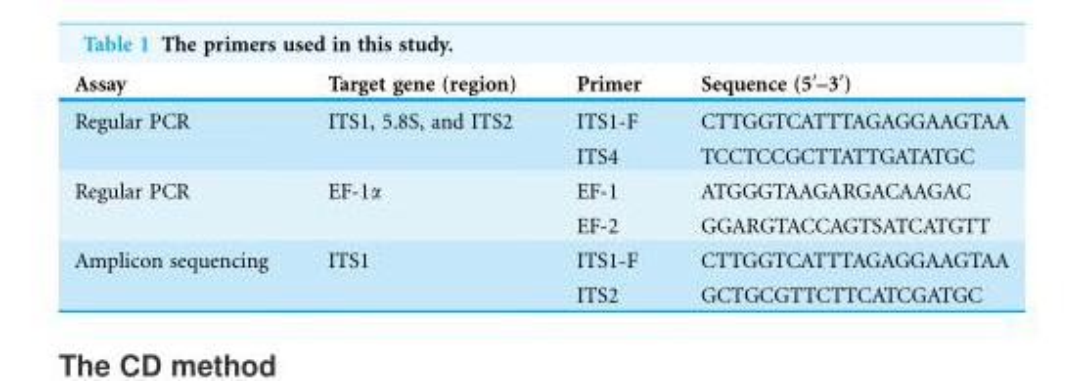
<table><thead><tr><td>Assay</td><td>Target gene (region)</td><td>Primer</td><td>Sequence (5′–3′)</td></tr></thead><tbody><tr><td rowspan="2">Regular PCR</td><td>ITS1, 5.8S, and ITS2</td><td>ITS1-F</td><td>CTTGGTCATTTAGAGGAAGTAA</td></tr><tr><td></td><td>ITS4</td><td>TCCTCCGCTTATTGATATGC</td></tr><tr><td rowspan="2">Regular PCR</td><td>EF-1α</td><td>EF-1</td><td>ATGGGTAAGARGACAAGAC</td></tr><tr><td></td><td>EF-2</td><td>GGARGTACCAGTSATCATGTT</td></tr><tr><td rowspan="2">Amplicon sequencing</td><td>ITS1</td><td>ITS1-F</td><td>CTTGGTCATTTAGAGGAAGTAA</td></tr><tr><td></td><td>ITS2</td><td>GCTGCGTTCTTCATCGATGC</td></tr></tbody></table>